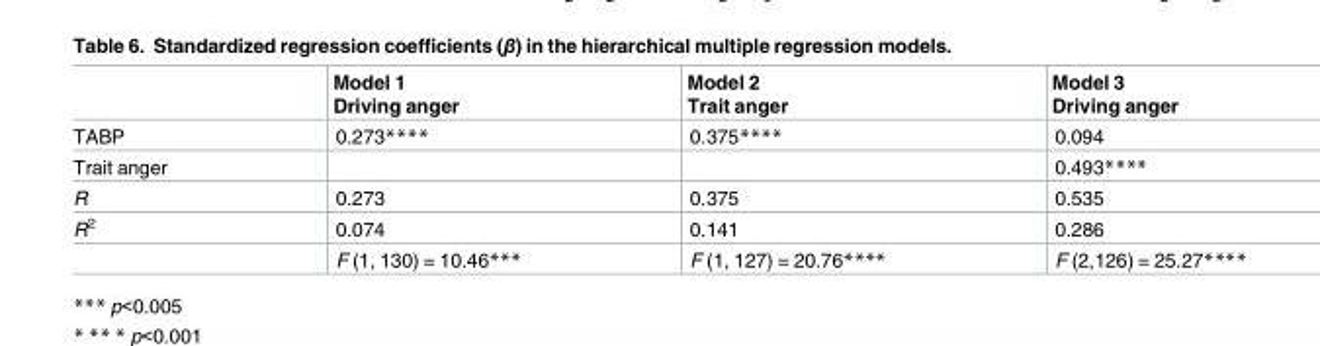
<table><thead><tr><td></td><td>Model 1 Driving anger</td><td>Model 2 Trait anger</td><td>Model 3 Driving anger</td></tr></thead><tbody><tr><td>TABP</td><td>0.273****</td><td>0.375****</td><td>0.094</td></tr><tr><td>Trait anger</td><td></td><td></td><td>0.493****</td></tr><tr><td>R</td><td>0.273</td><td>0.375</td><td>0.535</td></tr><tr><td rowspan="2">R<sup>2</sup></td><td>0.074</td><td>0.141</td><td>0.286</td></tr><tr><td>F (1, 130) = 10.46***</td><td>F (1, 127) = 20.76****</td><td>F (2,126) = 25.27****</td></tr></tbody></table>